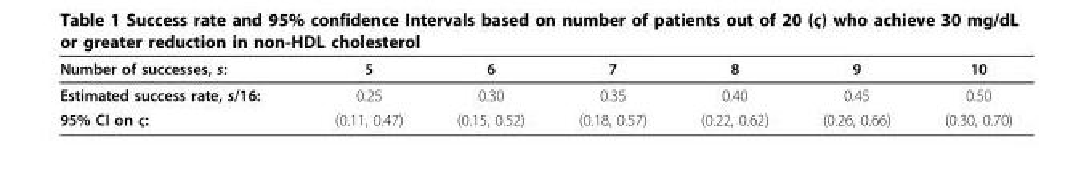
<table><thead><tr><td>Number of successes, s:</td><td>5</td><td>6</td><td>7</td><td>8</td><td>9</td><td>10</td></tr></thead><tbody><tr><td>Estimated success rate, s/16:</td><td>0.25</td><td>0.30</td><td>0.35</td><td>0.40</td><td>0.45</td><td>0.50</td></tr><tr><td>95% CI on ς:</td><td>(0.11, 0.47)</td><td>(0.15, 0.52)</td><td>(0.18, 0.57)</td><td>(0.22, 0.62)</td><td>(0.26, 0.66)</td><td>(0.30, 0.70)</td></tr></tbody></table>